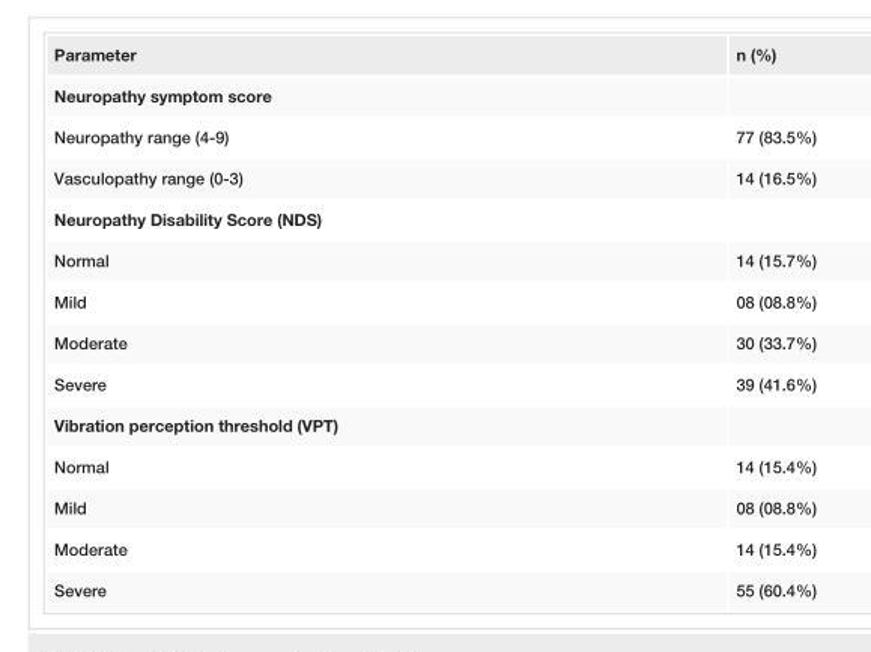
<table><tbody><tr><td>Parameter</td><td>n (%)</td></tr><tr><td colspan="2">Neuropathy symptom score</td></tr><tr><td>Neuropathy range (4-9)</td><td>77 (83.5%)</td></tr><tr><td>Vasculopathy range (0-3)</td><td>14 (16.5%)</td></tr><tr><td colspan="2">Neuropathy Disability Score (NDS)</td></tr><tr><td>Normal</td><td>14 (15.7%)</td></tr><tr><td>Mild</td><td>08 (08.8%)</td></tr><tr><td>Moderate</td><td>30 (33.7%)</td></tr><tr><td>Severe</td><td>39 (41.6%)</td></tr><tr><td colspan="2">Vibration perception threshold (VPT)</td></tr><tr><td>Normal</td><td>14 (15.4%)</td></tr><tr><td>Mild</td><td>08 (08.8%)</td></tr><tr><td>Moderate</td><td>14 (15.4%)</td></tr><tr><td>Severe</td><td>55 (60.4%)</td></tr></tbody></table>